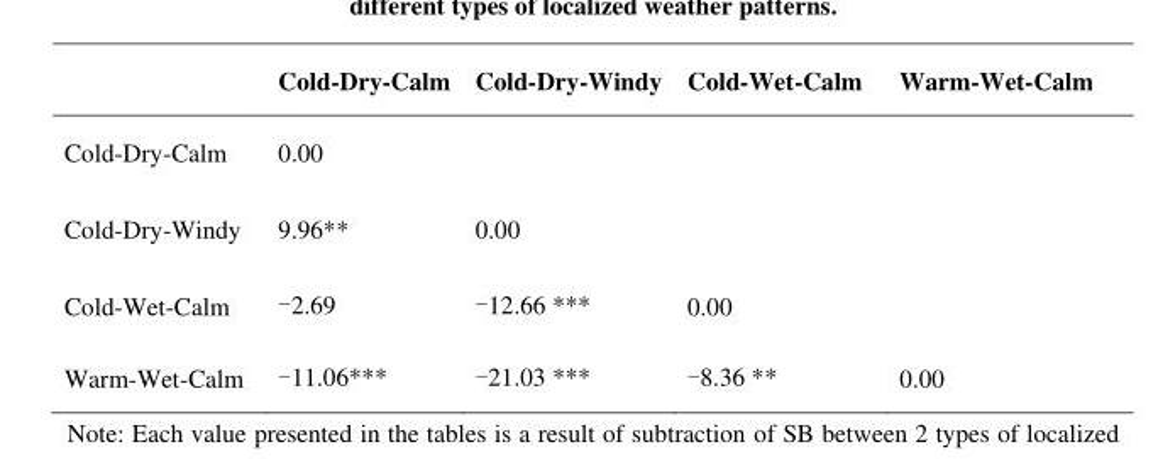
<table><thead><tr><td></td><td>Cold-Dry-Calm</td><td>Cold-Dry-Windy</td><td>Cold-Wet-Calm</td><td>Warm-Wet-Calm</td></tr></thead><tbody><tr><td>Cold-Dry-Calm</td><td>0.00</td><td></td><td></td><td></td></tr><tr><td>Cold-Dry-Windy</td><td>9.96**</td><td>0.00</td><td></td><td></td></tr><tr><td>Cold-Wet-Calm</td><td>-2.69</td><td>-12.66 ***</td><td>0.00</td><td></td></tr><tr><td>Warm-Wet-Calm</td><td>-11.06***</td><td>-21.03 ***</td><td>-8.36 **</td><td>0.00</td></tr></tbody></table>